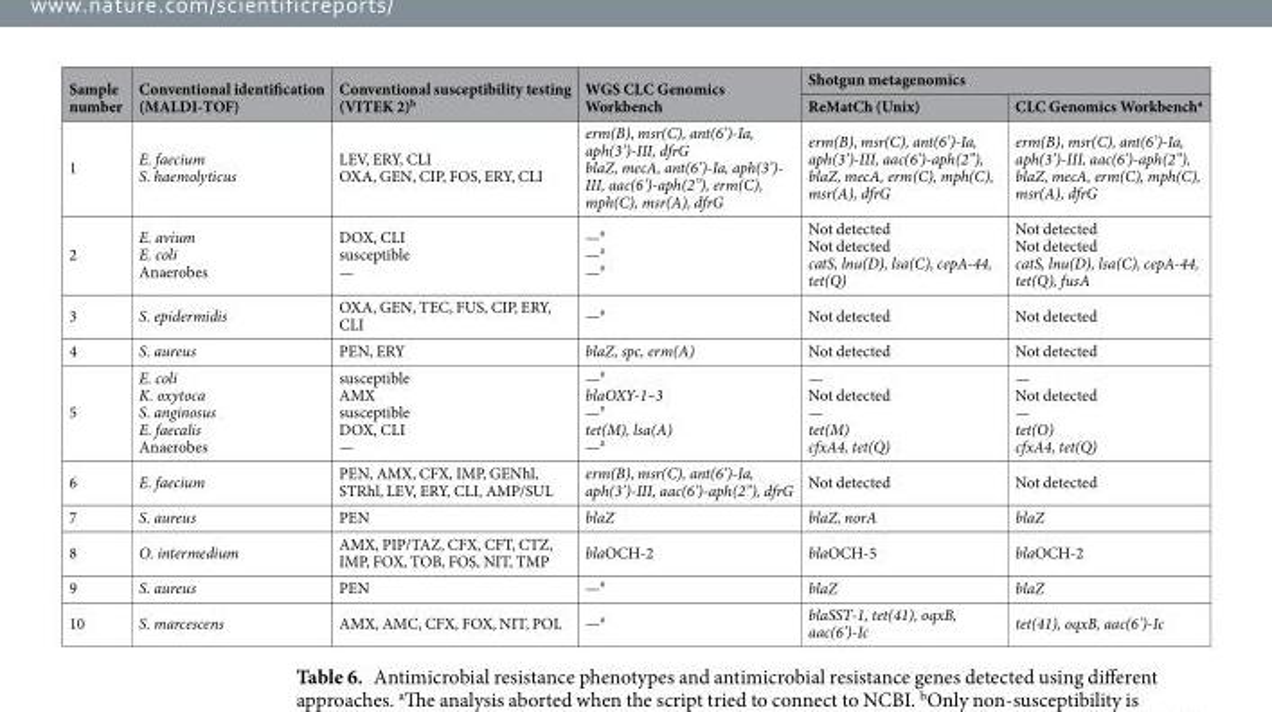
<table><thead><tr><td rowspan="2">Sample number</td><td rowspan="2">Conventional identification (MALDI-TOF)</td><td rowspan="2">Conventional susceptibility testing (VITEK 2)<sup>b</sup></td><td rowspan="2">WGS CLC Genomics Workbench</td><td colspan="2">Shotgun metagenomics</td></tr><tr><td>ReMatCh (Unix)</td><td>CLC Genomics Workbench<sup>a</sup></td></tr></thead><tbody><tr><td>1</td><td>E. faecium S. haemolyticus</td><td>LEV, ERY, CLI OXA, GEN, CIP, FOS, ERY, CLI</td><td>erm(B), msr(C), ant(6’)-Ia, aph(3’)-III, dfrG blaZ, mecA, ant(6’)-Ia, aph(3’)- III, aac(6’)-aph(2”), erm(C), mph(C), msr(A), dfrG</td><td>erm(B), msr(C), ant(6’)-Ia, aph(3’)-III, aac(6’)-aph(2”), blaZ, mecA, erm(C), mph(C), msr(A), dfrG</td><td>erm(B), msr(C), ant(6’)-Ia, aph(3’)-III, aac(6’)-aph(2”), blaZ, mecA, erm(C), mph(C), msr(A), dfrG</td></tr><tr><td>2</td><td>E. avium E. coli Anaerobes</td><td>DOX, CLI susceptible —</td><td>—<sup>#</sup> —<sup>#</sup> —<sup>#</sup></td><td>Not detected Not detected catS, lnu(D), lsa(C), cepA-44, tet(Q)</td><td>Not detected Not detected catS, lnu(D), lsa(C), cepA-44, tet(Q), fusA</td></tr><tr><td>3</td><td>S. epidermidis</td><td>OXA, GEN, TEC, FUS, CIP, ERY, CLI</td><td>—<sup>#</sup></td><td>Not detected</td><td>Not detected</td></tr><tr><td>4</td><td>S. aureus</td><td>PEN, ERY</td><td>blaZ, spc, erm(A)</td><td>Not detected</td><td>Not detected</td></tr><tr><td>5</td><td>E. coli K. oxytoca S. anginosus E. faecalis Anaerobes</td><td>susceptible AMX susceptible DOX, CLI —</td><td>—<sup>#</sup> blaOXY-1–3 —<sup>#</sup> tet(M), lsa(A) —<sup>#</sup></td><td>— Not detected — tet(M) cfxA4, tet(Q)</td><td>— Not detected — tet(O) cfxA4, tet(Q)</td></tr><tr><td>6</td><td>E. faecium</td><td>PEN, AMX, CFX, IMP, GENhl, STRhl, LEV, ERY, CLI, AMP/SUL</td><td>erm(B), msr(C), ant(6’)-Ia, aph(3’)-III, aac(6’)-aph(2”), dfrG</td><td>Not detected</td><td>Not detected</td></tr><tr><td>7</td><td>S. aureus</td><td>PEN</td><td>blaZ</td><td>blaZ, norA</td><td>blaZ</td></tr><tr><td>8</td><td>O. intermedium</td><td>AMX, PIP/TAZ, CFX, CFT, CTZ, IMP, FOX, TOB, FOS, NIT, TMP</td><td>blaOCH-2</td><td>blaOCH-5</td><td>blaOCH-2</td></tr><tr><td>9</td><td>S. aureus</td><td>PEN</td><td>—<sup>#</sup></td><td>blaZ</td><td>blaZ</td></tr><tr><td>10</td><td>S. marcescens</td><td>AMX, AMC, CFX, FOX, NIT, POL</td><td>—<sup>#</sup></td><td>blaSST-1, tet(41), oqxB, aac(6’)-Ic</td><td>tet(41), oqxB, aac(6’)-Ic</td></tr></tbody></table>